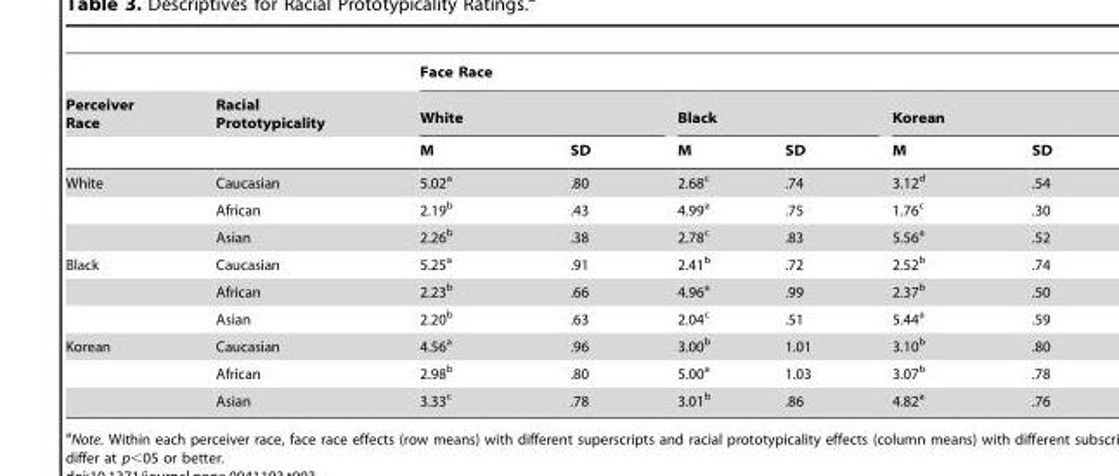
<table><thead><tr><td rowspan="3">Perceiver Race</td><td rowspan="3">Racial Prototypicality</td><td colspan="6">Face Race</td></tr><tr><td colspan="2">White</td><td colspan="2">Black</td><td colspan="2">Korean</td></tr><tr><td>M</td><td>SD</td><td>M</td><td>SD</td><td>M</td><td>SD</td></tr></thead><tbody><tr><td rowspan="3">White</td><td>Caucasian</td><td>5.02<sup>a</sup></td><td>.80</td><td>2.68<sup>c</sup></td><td>.74</td><td>3.12<sup>d</sup></td><td>.54</td></tr><tr><td>African</td><td>2.19<sup>b</sup></td><td>.43</td><td>4.99<sup>a</sup></td><td>.75</td><td>1.76<sup>c</sup></td><td>.30</td></tr><tr><td>Asian</td><td>2.26<sup>b</sup></td><td>.38</td><td>2.78<sup>c</sup></td><td>.83</td><td>5.56<sup>a</sup></td><td>.52</td></tr><tr><td rowspan="3">Black</td><td>Caucasian</td><td>5.25<sup>a</sup></td><td>.91</td><td>2.41<sup>b</sup></td><td>.72</td><td>2.52<sup>b</sup></td><td>.74</td></tr><tr><td>African</td><td>2.23<sup>b</sup></td><td>.66</td><td>4.96<sup>a</sup></td><td>.99</td><td>2.37<sup>b</sup></td><td>.50</td></tr><tr><td>Asian</td><td>2.20<sup>b</sup></td><td>.63</td><td>2.04<sup>c</sup></td><td>.51</td><td>5.44<sup>a</sup></td><td>.59</td></tr><tr><td rowspan="3">Korean</td><td>Caucasian</td><td>4.56<sup>a</sup></td><td>.96</td><td>3.00<sup>b</sup></td><td>1.01</td><td>3.10<sup>b</sup></td><td>.80</td></tr><tr><td>African</td><td>2.98<sup>b</sup></td><td>.80</td><td>5.00<sup>a</sup></td><td>1.03</td><td>3.07<sup>b</sup></td><td>.78</td></tr><tr><td>Asian</td><td>3.33<sup>c</sup></td><td>.78</td><td>3.01<sup>b</sup></td><td>.86</td><td>4.82<sup>a</sup></td><td>.76</td></tr></tbody></table>